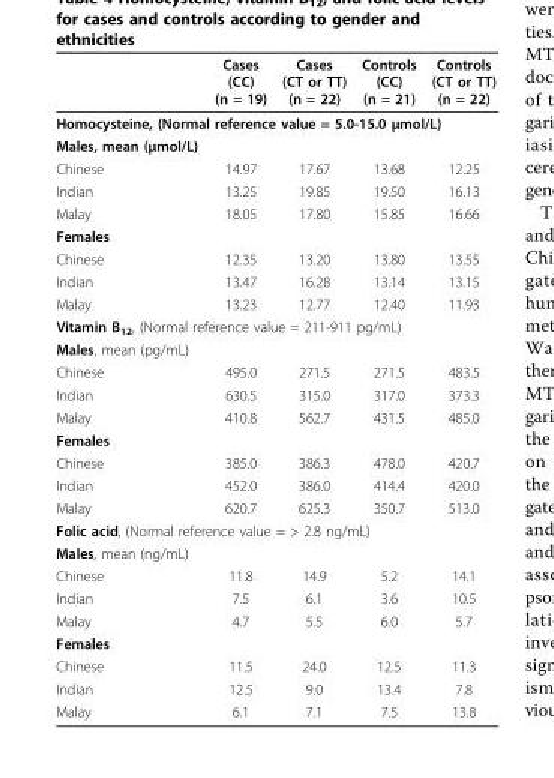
<table><thead><tr><td></td><td>Cases (CC) (n = 19)</td><td>Cases (CT or TT) (n = 22)</td><td>Controls (CC) (n = 21)</td><td>Controls (CT or TT) (n = 22)</td></tr></thead><tbody><tr><td colspan="5">Homocysteine, (Normal reference value = 5.0-15.0 μmol/L)</td></tr><tr><td colspan="5">Males, mean (μmol/L)</td></tr><tr><td>Chinese</td><td>14.97</td><td>17.67</td><td>13.68</td><td>12.25</td></tr><tr><td>Indian</td><td>13.25</td><td>19.85</td><td>19.50</td><td>16.13</td></tr><tr><td>Malay</td><td>18.05</td><td>17.80</td><td>15.85</td><td>16.66</td></tr><tr><td colspan="5">Females</td></tr><tr><td>Chinese</td><td>12.35</td><td>13.20</td><td>13.80</td><td>13.55</td></tr><tr><td>Indian</td><td>13.47</td><td>16.28</td><td>13.14</td><td>13.15</td></tr><tr><td>Malay</td><td>13.23</td><td>12.77</td><td>12.40</td><td>11.93</td></tr><tr><td colspan="5">Vitamin B<sub>12</sub>, (Normal reference value = 211-911 pg/mL)</td></tr><tr><td colspan="5">Males, mean (pg/mL)</td></tr><tr><td>Chinese</td><td>495.0</td><td>271.5</td><td>271.5</td><td>483.5</td></tr><tr><td>Indian</td><td>630.5</td><td>315.0</td><td>317.0</td><td>373.3</td></tr><tr><td>Malay</td><td>410.8</td><td>562.7</td><td>431.5</td><td>485.0</td></tr><tr><td colspan="5">Females</td></tr><tr><td>Chinese</td><td>385.0</td><td>386.3</td><td>478.0</td><td>420.7</td></tr><tr><td>Indian</td><td>452.0</td><td>386.0</td><td>414.4</td><td>420.0</td></tr><tr><td>Malay</td><td>620.7</td><td>625.3</td><td>350.7</td><td>513.0</td></tr><tr><td colspan="5">Folic acid, (Normal reference value = &gt; 2.8 ng/mL)</td></tr><tr><td colspan="5">Males, mean (ng/mL)</td></tr><tr><td>Chinese</td><td>11.8</td><td>14.9</td><td>5.2</td><td>14.1</td></tr><tr><td>Indian</td><td>7.5</td><td>6.1</td><td>3.6</td><td>10.5</td></tr><tr><td>Malay</td><td>4.7</td><td>5.5</td><td>6.0</td><td>5.7</td></tr><tr><td colspan="5">Females</td></tr><tr><td>Chinese</td><td>11.5</td><td>24.0</td><td>12.5</td><td>11.3</td></tr><tr><td>Indian</td><td>12.5</td><td>9.0</td><td>13.4</td><td>7.8</td></tr><tr><td>Malay</td><td>6.1</td><td>7.1</td><td>7.5</td><td>13.8</td></tr></tbody></table>